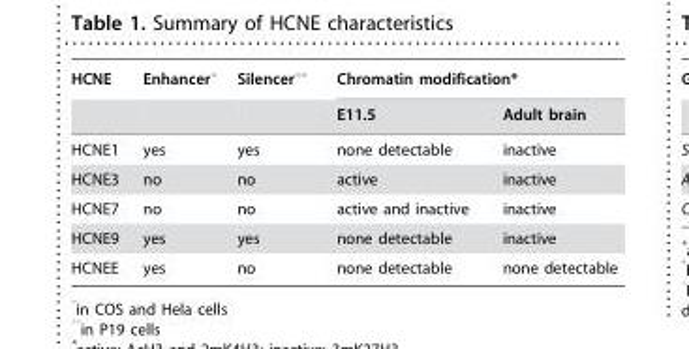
<table><thead><tr><td rowspan="2">HCNE</td><td rowspan="2">Enhancer°</td><td rowspan="2">Silencer°°</td><td colspan="2">Chromatin modification*</td></tr><tr><td>E11.5</td><td>Adult brain</td></tr></thead><tbody><tr><td>HCNE1</td><td>yes</td><td>yes</td><td>none detectable</td><td>inactive</td></tr><tr><td>HCNE3</td><td>no</td><td>no</td><td>active</td><td>inactive</td></tr><tr><td>HCNE7</td><td>no</td><td>no</td><td>active and inactive</td><td>inactive</td></tr><tr><td>HCNE9</td><td>yes</td><td>yes</td><td>none detectable</td><td>inactive</td></tr><tr><td>HCNEE</td><td>yes</td><td>no</td><td>none detectable</td><td>none detectable</td></tr></tbody></table>